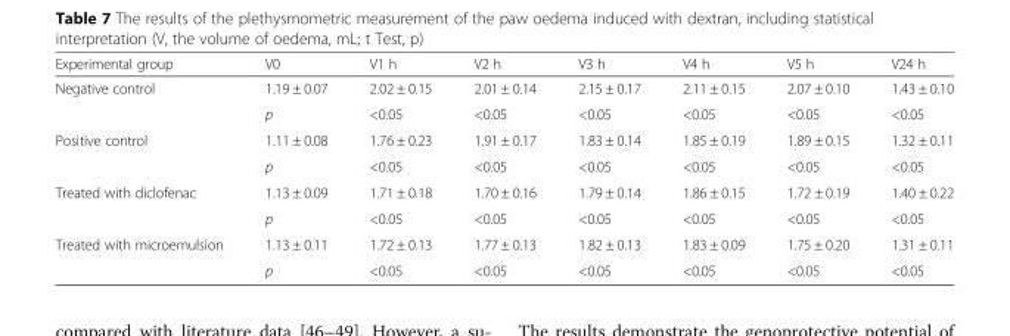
<table><thead><tr><td>Experimental group</td><td>V0</td><td>V1 h</td><td>V2 h</td><td>V3 h</td><td>V4 h</td><td>V5 h</td><td>V24 h</td></tr></thead><tbody><tr><td rowspan="2">Negative control</td><td>1.19 ± 0.07</td><td>2.02 ± 0.15</td><td>2.01 ± 0.14</td><td>2.15 ± 0.17</td><td>2.11 ± 0.15</td><td>2.07 ± 0.10</td><td>1.43 ± 0.10</td></tr><tr><td>p</td><td>&lt;0.05</td><td>&lt;0.05</td><td>&lt;0.05</td><td>&lt;0.05</td><td>&lt;0.05</td><td>&lt;0.05</td></tr><tr><td rowspan="2">Positive control</td><td>1.11 ± 0.08</td><td>1.76 ± 0.23</td><td>1.91 ± 0.17</td><td>1.83 ± 0.14</td><td>1.85 ± 0.19</td><td>1.89 ± 0.15</td><td>1.32 ± 0.11</td></tr><tr><td>p</td><td>&lt;0.05</td><td>&lt;0.05</td><td>&lt;0.05</td><td>&lt;0.05</td><td>&lt;0.05</td><td>&lt;0.05</td></tr><tr><td rowspan="2">Treated with diclofenac</td><td>1.13 ± 0.09</td><td>1.71 ± 0.18</td><td>1.70 ± 0.16</td><td>1.79 ± 0.14</td><td>1.86 ± 0.15</td><td>1.72 ± 0.19</td><td>1.40 ± 0.22</td></tr><tr><td>p</td><td>&lt;0.05</td><td>&lt;0.05</td><td>&lt;0.05</td><td>&lt;0.05</td><td>&lt;0.05</td><td>&lt;0.05</td></tr><tr><td rowspan="2">Treated with microemulsion</td><td>1.13 ± 0.11</td><td>1.72 ± 0.13</td><td>1.77 ± 0.13</td><td>1.82 ± 0.13</td><td>1.83 ± 0.09</td><td>1.75 ± 0.20</td><td>1.31 ± 0.11</td></tr><tr><td>p</td><td>&lt;0.05</td><td>&lt;0.05</td><td>&lt;0.05</td><td>&lt;0.05</td><td>&lt;0.05</td><td>&lt;0.05</td></tr></tbody></table>